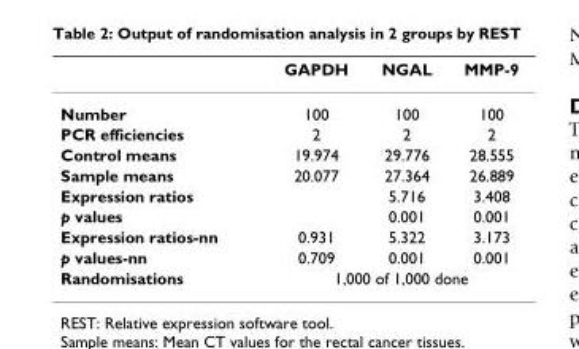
<table><thead><tr><td></td><td>GAPDH</td><td>NGAL</td><td>MMP-9</td></tr></thead><tbody><tr><td>Number</td><td>100</td><td>100</td><td>100</td></tr><tr><td>PCR efficiencies</td><td>2</td><td>2</td><td>2</td></tr><tr><td>Control means</td><td>19.974</td><td>29.776</td><td>28.555</td></tr><tr><td>Sample means</td><td>20.077</td><td>27.364</td><td>26.889</td></tr><tr><td>Expression ratios</td><td></td><td>5.716</td><td>3.408</td></tr><tr><td>p values</td><td></td><td>0.001</td><td>0.001</td></tr><tr><td>Expression ratios-nn</td><td>0.931</td><td>5.322</td><td>3.173</td></tr><tr><td>p values-nn</td><td>0.709</td><td>0.001</td><td>0.001</td></tr><tr><td>Randomisations</td><td colspan="3">1,000 of 1,000 done</td></tr></tbody></table>